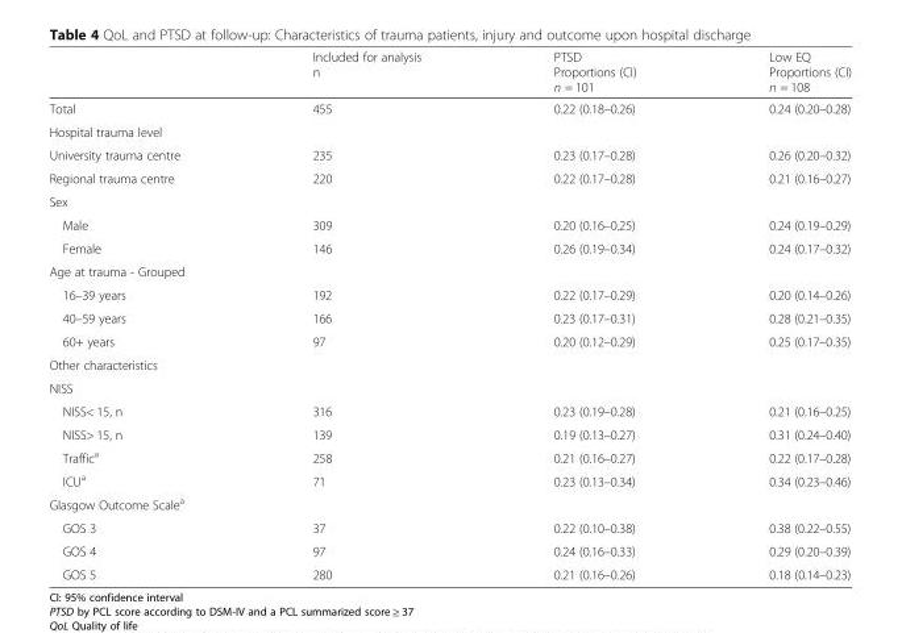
<table><thead><tr><td></td><td>Included for analysis n</td><td>PTSD Proportions (CI) n = 101</td><td>Low EQ Proportions (CI) n = 108</td></tr></thead><tbody><tr><td>Total</td><td>455</td><td>0.22 (0.18–0.26)</td><td>0.24 (0.20–0.28)</td></tr><tr><td colspan="4">Hospital trauma level</td></tr><tr><td>University trauma centre</td><td>235</td><td>0.23 (0.17–0.28)</td><td>0.26 (0.20–0.32)</td></tr><tr><td>Regional trauma centre</td><td>220</td><td>0.22 (0.17–0.28)</td><td>0.21 (0.16–0.27)</td></tr><tr><td colspan="4">Sex</td></tr><tr><td>Male</td><td>309</td><td>0.20 (0.16–0.25)</td><td>0.24 (0.19–0.29)</td></tr><tr><td>Female</td><td>146</td><td>0.26 (0.19–0.34)</td><td>0.24 (0.17–0.32)</td></tr><tr><td colspan="4">Age at trauma - Grouped</td></tr><tr><td>16–39 years</td><td>192</td><td>0.22 (0.17–0.29)</td><td>0.20 (0.14–0.26)</td></tr><tr><td>40–59 years</td><td>166</td><td>0.23 (0.17–0.31)</td><td>0.28 (0.21–0.35)</td></tr><tr><td>60+ years</td><td>97</td><td>0.20 (0.12–0.29)</td><td>0.25 (0.17–0.35)</td></tr><tr><td colspan="4">Other characteristics</td></tr><tr><td colspan="4">NISS</td></tr><tr><td>NISS&lt; 15, n</td><td>316</td><td>0.23 (0.19–0.28)</td><td>0.21 (0.16–0.25)</td></tr><tr><td>NISS&gt; 15, n</td><td>139</td><td>0.19 (0.13–0.27)</td><td>0.31 (0.24–0.40)</td></tr><tr><td>Traffic<sup>a</sup></td><td>258</td><td>0.21 (0.16–0.27)</td><td>0.22 (0.17–0.28)</td></tr><tr><td>ICU<sup>a</sup></td><td>71</td><td>0.23 (0.13–0.34)</td><td>0.34 (0.23–0.46)</td></tr><tr><td colspan="4">Glasgow Outcome Scale<sup>a</sup></td></tr><tr><td>GOS 3</td><td>37</td><td>0.22 (0.10–0.38)</td><td>0.38 (0.22–0.55)</td></tr><tr><td>GOS 4</td><td>97</td><td>0.24 (0.16–0.33)</td><td>0.29 (0.20–0.39)</td></tr><tr><td>GOS 5</td><td>280</td><td>0.21 (0.16–0.26)</td><td>0.18 (0.14–0.23)</td></tr></tbody></table>